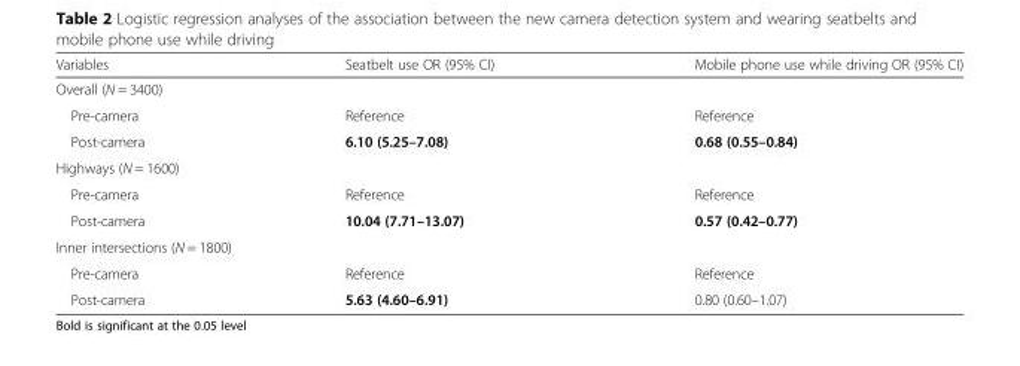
<table><thead><tr><td>Variables</td><td>Seatbelt use OR (95% CI)</td><td>Mobile phone use while driving OR (95% CI)</td></tr></thead><tbody><tr><td colspan="3">Overall (N = 3400)</td></tr><tr><td>Pre-camera</td><td>Reference</td><td>Reference</td></tr><tr><td>Post-camera</td><td>6.10 (5.25–7.08)</td><td>0.68 (0.55–0.84)</td></tr><tr><td colspan="3">Highways (N = 1600)</td></tr><tr><td>Pre-camera</td><td>Reference</td><td>Reference</td></tr><tr><td>Post-camera</td><td>10.04 (7.71–13.07)</td><td>0.57 (0.42–0.77)</td></tr><tr><td colspan="3">Inner intersections (N = 1800)</td></tr><tr><td>Pre-camera</td><td>Reference</td><td>Reference</td></tr><tr><td>Post-camera</td><td>5.63 (4.60–6.91)</td><td>0.80 (0.60–1.07)</td></tr></tbody></table>